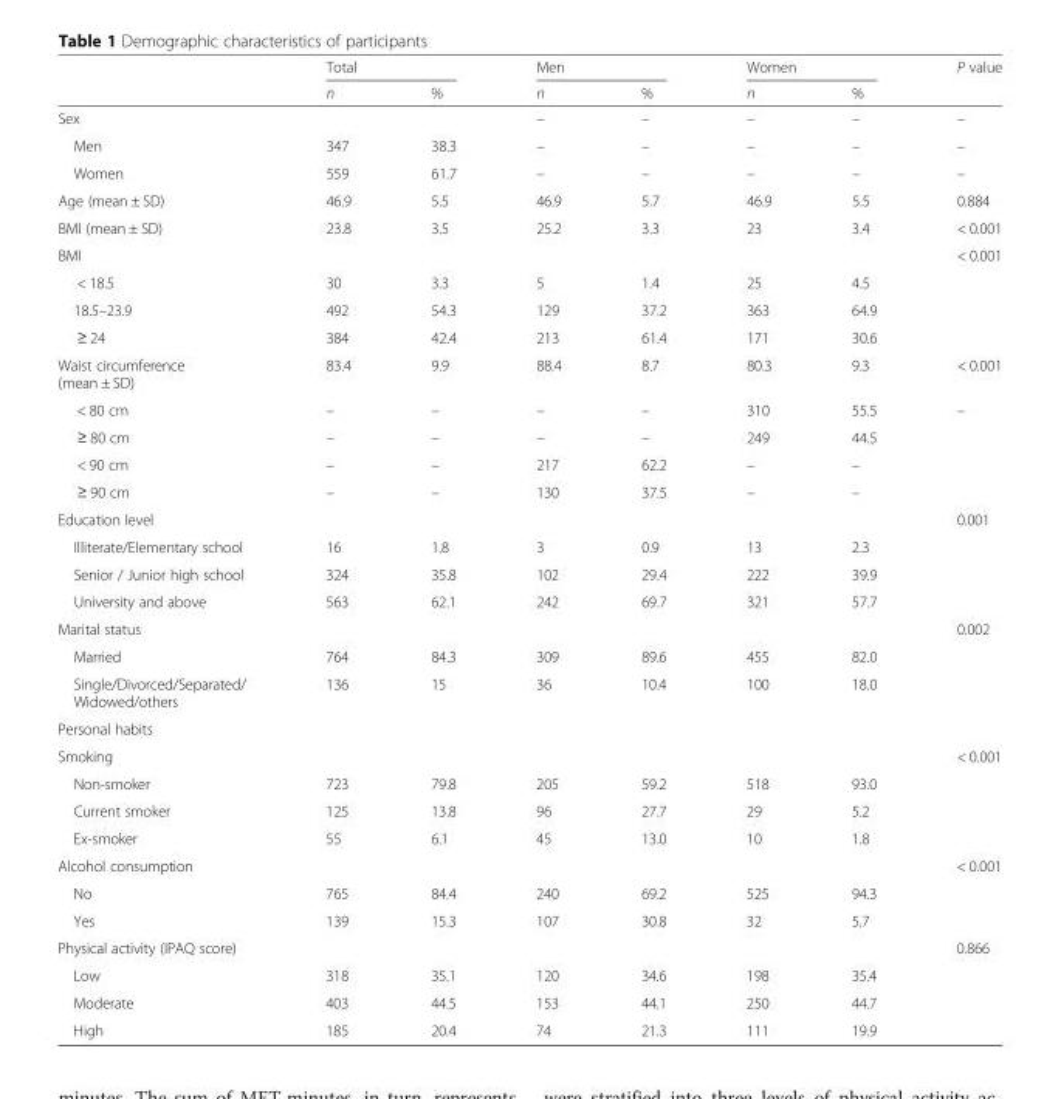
<table><thead><tr><td rowspan="2"></td><td colspan="2">Total</td><td colspan="2">Men</td><td colspan="2">Women</td><td rowspan="2">P value</td></tr><tr><td>n</td><td>%</td><td>n</td><td>%</td><td>n</td><td>%</td></tr></thead><tbody><tr><td>Sex</td><td></td><td></td><td>–</td><td>–</td><td>–</td><td>–</td><td>–</td></tr><tr><td>Men</td><td>347</td><td>38.3</td><td>–</td><td>–</td><td>–</td><td>–</td><td>–</td></tr><tr><td>Women</td><td>559</td><td>61.7</td><td>–</td><td>–</td><td>–</td><td>–</td><td>–</td></tr><tr><td>Age (mean ± SD)</td><td>46.9</td><td>5.5</td><td>46.9</td><td>5.7</td><td>46.9</td><td>5.5</td><td>0.884</td></tr><tr><td>BMI (mean ± SD)</td><td>23.8</td><td>3.5</td><td>25.2</td><td>3.3</td><td>23</td><td>3.4</td><td>&lt; 0.001</td></tr><tr><td colspan="7">BMI</td><td>&lt; 0.001</td></tr><tr><td>&lt; 18.5</td><td>30</td><td>3.3</td><td>5</td><td>1.4</td><td>25</td><td>4.5</td><td></td></tr><tr><td>18.5–23.9</td><td>492</td><td>54.3</td><td>129</td><td>37.2</td><td>363</td><td>64.9</td><td></td></tr><tr><td>≥ 24</td><td>384</td><td>42.4</td><td>213</td><td>61.4</td><td>171</td><td>30.6</td><td></td></tr><tr><td>Waist circumference (mean ± SD)</td><td>83.4</td><td>9.9</td><td>88.4</td><td>8.7</td><td>80.3</td><td>9.3</td><td>&lt; 0.001</td></tr><tr><td>&lt; 80 cm</td><td>–</td><td>–</td><td>–</td><td>–</td><td>310</td><td>55.5</td><td>–</td></tr><tr><td>≥ 80 cm</td><td>–</td><td>–</td><td>–</td><td>–</td><td>249</td><td>44.5</td><td></td></tr><tr><td>&lt; 90 cm</td><td>–</td><td>–</td><td>217</td><td>62.2</td><td>–</td><td>–</td><td></td></tr><tr><td>≥ 90 cm</td><td>–</td><td>–</td><td>130</td><td>37.5</td><td>–</td><td>–</td><td></td></tr><tr><td colspan="7">Education level</td><td>0.001</td></tr><tr><td>Illiterate/Elementary school</td><td>16</td><td>1.8</td><td>3</td><td>0.9</td><td>13</td><td>2.3</td><td></td></tr><tr><td>Senior / Junior high school</td><td>324</td><td>35.8</td><td>102</td><td>29.4</td><td>222</td><td>39.9</td><td></td></tr><tr><td>University and above</td><td>563</td><td>62.1</td><td>242</td><td>69.7</td><td>321</td><td>57.7</td><td></td></tr><tr><td colspan="7">Marital status</td><td>0.002</td></tr><tr><td>Married</td><td>764</td><td>84.3</td><td>309</td><td>89.6</td><td>455</td><td>82.0</td><td></td></tr><tr><td>Single/Divorced/Separated/ Widowed/others</td><td>136</td><td>15</td><td>36</td><td>10.4</td><td>100</td><td>18.0</td><td></td></tr><tr><td colspan="8">Personal habits</td></tr><tr><td colspan="7">Smoking</td><td>&lt; 0.001</td></tr><tr><td>Non-smoker</td><td>723</td><td>79.8</td><td>205</td><td>59.2</td><td>518</td><td>93.0</td><td></td></tr><tr><td>Current smoker</td><td>125</td><td>13.8</td><td>96</td><td>27.7</td><td>29</td><td>5.2</td><td></td></tr><tr><td>Ex-smoker</td><td>55</td><td>6.1</td><td>45</td><td>13.0</td><td>10</td><td>1.8</td><td></td></tr><tr><td colspan="7">Alcohol consumption</td><td>&lt; 0.001</td></tr><tr><td>No</td><td>765</td><td>84.4</td><td>240</td><td>69.2</td><td>525</td><td>94.3</td><td></td></tr><tr><td>Yes</td><td>139</td><td>15.3</td><td>107</td><td>30.8</td><td>32</td><td>5.7</td><td></td></tr><tr><td colspan="7">Physical activity (IPAQ score)</td><td>0.866</td></tr><tr><td>Low</td><td>318</td><td>35.1</td><td>120</td><td>34.6</td><td>198</td><td>35.4</td><td></td></tr><tr><td>Moderate</td><td>403</td><td>44.5</td><td>153</td><td>44.1</td><td>250</td><td>44.7</td><td></td></tr><tr><td>High</td><td>185</td><td>20.4</td><td>74</td><td>21.3</td><td>111</td><td>19.9</td><td></td></tr></tbody></table>